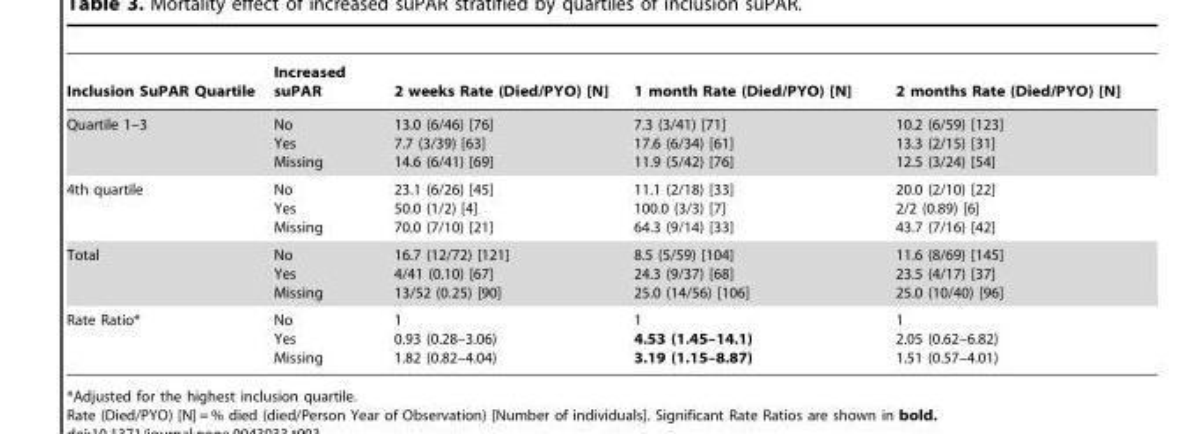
<table><thead><tr><td>Inclusion SuPAR Quartile</td><td>Increased suPAR</td><td>2 weeks Rate (Died/PYO) [N]</td><td>1 month Rate (Died/PYO) [N]</td><td>2 months Rate (Died/PYO) [N]</td></tr></thead><tbody><tr><td>Quartile 1–3</td><td>No Yes Missing</td><td>13.0 (6/46) [76] 7.7 (3/39) [63] 14.6 (6/41) [69]</td><td>7.3 (3/41) [71] 17.6 (6/34) [61] 11.9 (5/42) [76]</td><td>10.2 (6/59) [123] 13.3 (2/15) [31] 12.5 (3/24) [54]</td></tr><tr><td>4th quartile</td><td>No Yes Missing</td><td>23.1 (6/26) [45] 50.0 (1/2) [4] 70.0 (7/10) [21]</td><td>11.1 (2/18) [33] 100.0 (3/3) [7] 64.3 (9/14) [33]</td><td>20.0 (2/10) [22] 2/2 (0.89) [6] 43.7 (7/16) [42]</td></tr><tr><td>Total</td><td>No Yes Missing</td><td>16.7 (12/72) [121] 4/41 (0.10) [67] 13/52 (0.25) [90]</td><td>8.5 (5/59) [104] 24.3 (9/37) [68] 25.0 (14/56) [106]</td><td>11.6 (8/69) [145] 23.5 (4/17) [37] 25.0 (10/40) [96]</td></tr><tr><td>Rate Ratio*</td><td>No Yes Missing</td><td>1 0.93 (0.28–3.06) 1.82 (0.82–4.04)</td><td>1 4.53 (1.45–14.1) 3.19 (1.15–8.87)</td><td>1 2.05 (0.62–6.82) 1.51 (0.57–4.01)</td></tr></tbody></table>